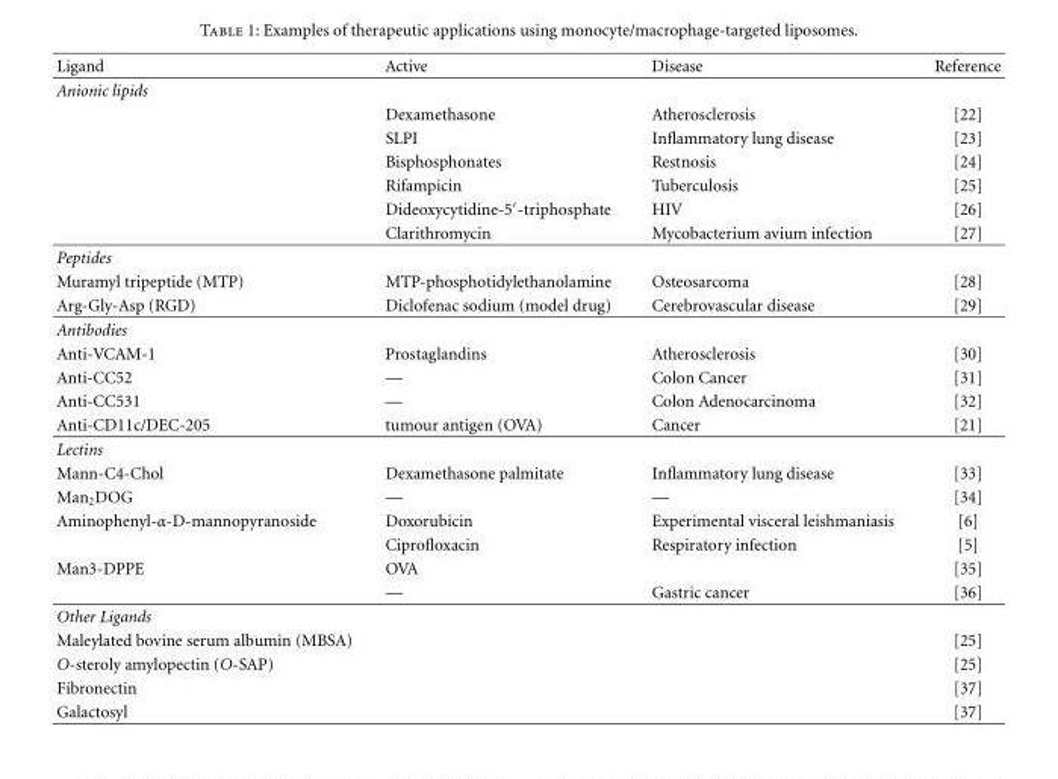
<table><thead><tr><td>Ligand</td><td>Active</td><td>Disease</td><td>Reference</td></tr></thead><tbody><tr><td colspan="4">Anionic lipids</td></tr><tr><td></td><td>Dexamethasone</td><td>Atherosclerosis</td><td>[22]</td></tr><tr><td></td><td>SLPI</td><td>Inflammatory lung disease</td><td>[23]</td></tr><tr><td></td><td>Bisphosphonates</td><td>Restnosis</td><td>[24]</td></tr><tr><td></td><td>Rifampicin</td><td>Tuberculosis</td><td>[25]</td></tr><tr><td></td><td>Dideoxycytidine-5′-triphosphate</td><td>HIV</td><td>[26]</td></tr><tr><td></td><td>Clarithromycin</td><td>Mycobacterium avium infection</td><td>[27]</td></tr><tr><td colspan="4">Peptides</td></tr><tr><td>Muramyl tripeptide (MTP)</td><td>MTP-phosphotidylethanolamine</td><td>Osteosarcoma</td><td>[28]</td></tr><tr><td>Arg-Gly-Asp (RGD)</td><td>Diclofenac sodium (model drug)</td><td>Cerebrovascular disease</td><td>[29]</td></tr><tr><td colspan="4">Antibodies</td></tr><tr><td>Anti-VCAM-1</td><td>Prostaglandins</td><td>Atherosclerosis</td><td>[30]</td></tr><tr><td>Anti-CC52</td><td>—</td><td>Colon Cancer</td><td>[31]</td></tr><tr><td>Anti-CC531</td><td>—</td><td>Colon Adenocarcinoma</td><td>[32]</td></tr><tr><td>Anti-CD11c/DEC-205</td><td>tumour antigen (OVA)</td><td>Cancer</td><td>[21]</td></tr><tr><td colspan="4">Lectins</td></tr><tr><td>Mann-C4-Chol</td><td>Dexamethasone palmitate</td><td>Inflammatory lung disease</td><td>[33]</td></tr><tr><td>Man<sub>2</sub>DOG</td><td>—</td><td>—</td><td>[34]</td></tr><tr><td rowspan="2">Aminophenyl-α-D-mannopyranoside</td><td>Doxorubicin</td><td>Experimental visceral leishmaniasis</td><td>[6]</td></tr><tr><td>Ciprofloxacin</td><td>Respiratory infection</td><td>[5]</td></tr><tr><td rowspan="2">Man3-DPPE</td><td>OVA</td><td></td><td>[35]</td></tr><tr><td>—</td><td>Gastric cancer</td><td>[36]</td></tr><tr><td colspan="4">Other Ligands</td></tr><tr><td>Maleylated bovine serum albumin (MBSA)</td><td></td><td></td><td>[25]</td></tr><tr><td>O-steroly amylopectin (O-SAP)</td><td></td><td></td><td>[25]</td></tr><tr><td>Fibronectin</td><td></td><td></td><td>[37]</td></tr><tr><td>Galactosyl</td><td></td><td></td><td>[37]</td></tr></tbody></table>